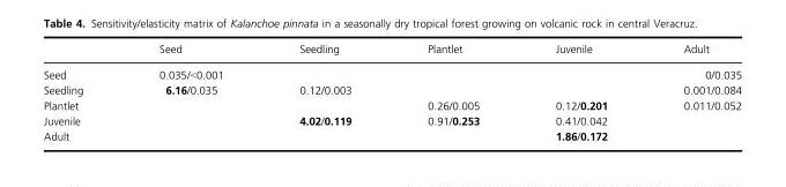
<table><thead><tr><td></td><td>Seed</td><td>Seedling</td><td>Plantlet</td><td>Juvenile</td><td>Adult</td></tr></thead><tbody><tr><td>Seed</td><td>0.035/&lt;0.001</td><td></td><td></td><td></td><td>0/0.035</td></tr><tr><td>Seedling</td><td>6.16/0.035</td><td>0.12/0.003</td><td></td><td></td><td>0.001/0.084</td></tr><tr><td>Plantlet</td><td></td><td></td><td>0.26/0.005</td><td>0.12/0.201</td><td>0.011/0.052</td></tr><tr><td>Juvenile</td><td></td><td>4.02/0.119</td><td>0.91/0.253</td><td>0.41/0.042</td><td></td></tr><tr><td>Adult</td><td></td><td></td><td></td><td>1.86/0.172</td><td></td></tr></tbody></table>